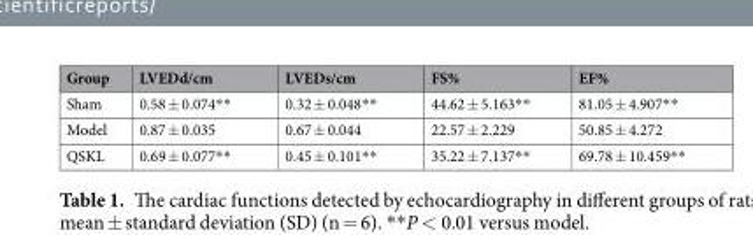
<table><thead><tr><td>Group</td><td>LVEDd/cm</td><td>LVEDs/cm</td><td>FS%</td><td>EF%</td></tr></thead><tbody><tr><td>Sham</td><td>0.58 ± 0.074**</td><td>0.32 ± 0.048**</td><td>44.62 ± 5.163**</td><td>81.05 ± 4.907**</td></tr><tr><td>Model</td><td>0.87 ± 0.035</td><td>0.67 ± 0.044</td><td>22.57 ± 2.229</td><td>50.85 ± 4.272</td></tr><tr><td>QSKL</td><td>0.69 ± 0.077**</td><td>0.45 ± 0.101**</td><td>35.22 ± 7.137**</td><td>69.78 ± 10.459**</td></tr></tbody></table>